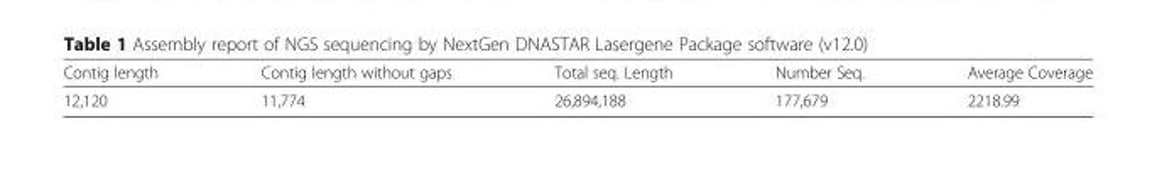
<table><thead><tr><td>Contig length</td><td>Contig length without gaps</td><td>Total seq. Length</td><td>Number Seq.</td><td>Average Coverage</td></tr></thead><tbody><tr><td>12,120</td><td>11,774</td><td>26,894,188</td><td>177,679</td><td>2218.99</td></tr></tbody></table>